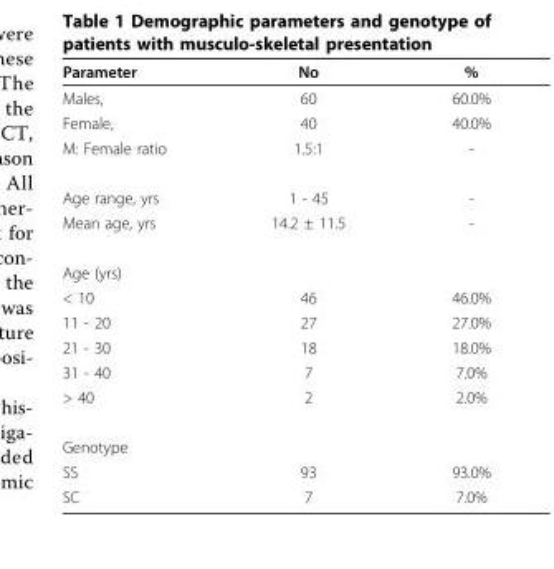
<table><thead><tr><td>Parameter</td><td>No</td><td>%</td></tr></thead><tbody><tr><td>Males,</td><td>60</td><td>60.0%</td></tr><tr><td>Female,</td><td>40</td><td>40.0%</td></tr><tr><td>M: Female ratio</td><td>1.5:1</td><td>-</td></tr><tr><td>Age range, yrs</td><td>1 - 45</td><td>-</td></tr><tr><td>Mean age, yrs</td><td>14.2 ± 11.5</td><td>-</td></tr><tr><td colspan="3">Age (yrs)</td></tr><tr><td>&lt; 10</td><td>46</td><td>46.0%</td></tr><tr><td>11 - 20</td><td>27</td><td>27.0%</td></tr><tr><td>21 - 30</td><td>18</td><td>18.0%</td></tr><tr><td>31 - 40</td><td>7</td><td>7.0%</td></tr><tr><td>&gt; 40</td><td>2</td><td>2.0%</td></tr><tr><td colspan="3">Genotype</td></tr><tr><td>SS</td><td>93</td><td>93.0%</td></tr><tr><td>SC</td><td>7</td><td>7.0%</td></tr></tbody></table>